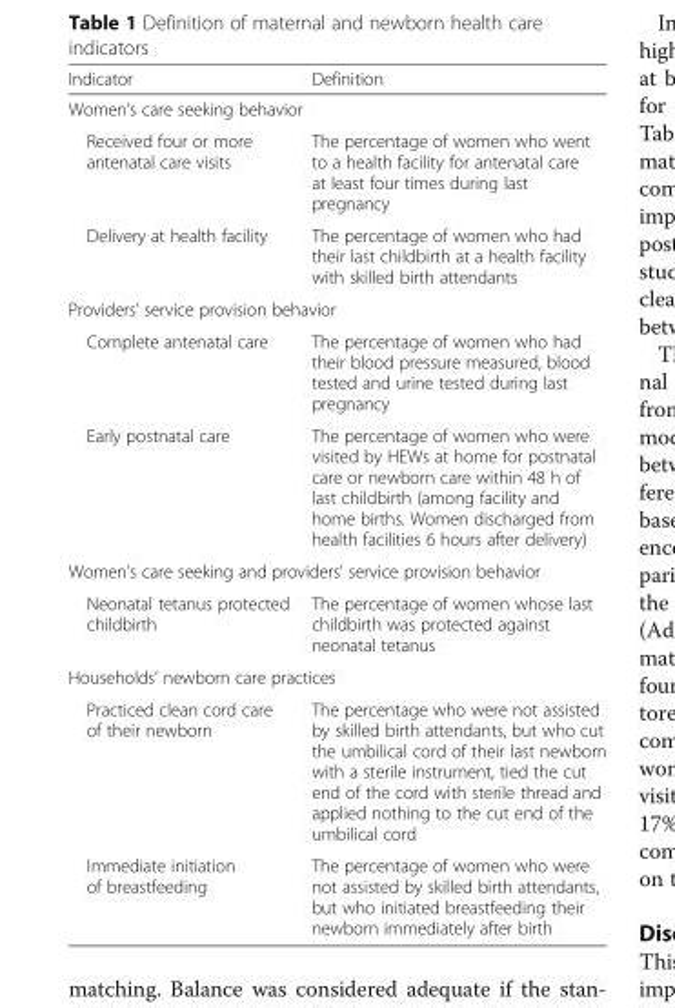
<table><thead><tr><td>Indicator</td><td>Definition</td></tr></thead><tbody><tr><td colspan="2">Women’s care seeking behavior</td></tr><tr><td>Received four or more antenatal care visits</td><td>The percentage of women who went to a health facility for antenatal care at least four times during last pregnancy</td></tr><tr><td>Delivery at health facility</td><td>The percentage of women who had their last childbirth at a health facility with skilled birth attendants</td></tr><tr><td colspan="2">Providers’ service provision behavior</td></tr><tr><td>Complete antenatal care</td><td>The percentage of women who had their blood pressure measured, blood tested and urine tested during last pregnancy</td></tr><tr><td>Early postnatal care</td><td>The percentage of women who were visited by HEWs at home for postnatal care or newborn care within 48 h of last childbirth (among facility and home births. Women discharged from health facilities 6 hours after delivery)</td></tr><tr><td colspan="2">Women’s care seeking and providers’ service provision behavior</td></tr><tr><td>Neonatal tetanus protected childbirth</td><td>The percentage of women whose last childbirth was protected against neonatal tetanus</td></tr><tr><td colspan="2">Households’ newborn care practices</td></tr><tr><td>Practiced clean cord care of their newborn</td><td>The percentage who were not assisted by skilled birth attendants, but who cut the umbilical cord of their last newborn with a sterile instrument, tied the cut end of the cord with sterile thread and applied nothing to the cut end of the umbilical cord</td></tr><tr><td>Immediate initiation of breastfeeding</td><td>The percentage of women who were not assisted by skilled birth attendants, but who initiated breastfeeding their newborn immediately after birth</td></tr></tbody></table>